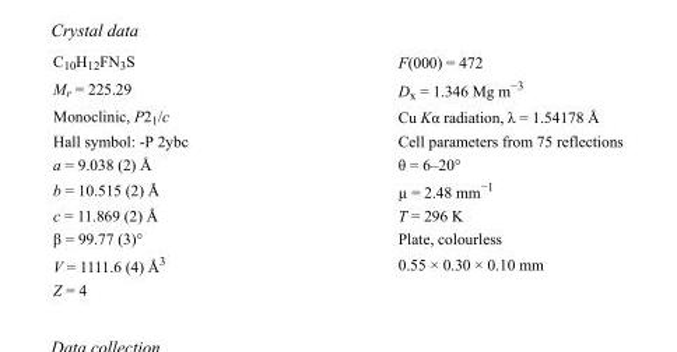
<table><tbody><tr><td>C<sub>10</sub>H<sub>12</sub>FN<sub>3</sub>S</td><td>F(000) = 472</td></tr><tr><td>M<sub>r</sub> = 225.29</td><td>D<sub>x</sub> = 1.346 Mg m<sup>−3</sup></td></tr><tr><td>Monoclinic, P2<sub>1</sub>/c</td><td>Cu Kα radiation, λ = 1.54178 Å</td></tr><tr><td>Hall symbol: -P 2ybc</td><td>Cell parameters from 75 reflections</td></tr><tr><td>a = 9.038 (2) Å</td><td>θ = 6–20°</td></tr><tr><td>b = 10.515 (2) Å</td><td>µ = 2.48 mm<sup>−1</sup></td></tr><tr><td>c = 11.869 (2) Å</td><td>T = 296 K</td></tr><tr><td>β = 99.77 (3)°</td><td>Plate, colourless</td></tr><tr><td>V = 1111.6 (4) Å<sup>3</sup></td><td>0.55 × 0.30 × 0.10 mm</td></tr><tr><td>Z = 4</td><td></td></tr></tbody></table>